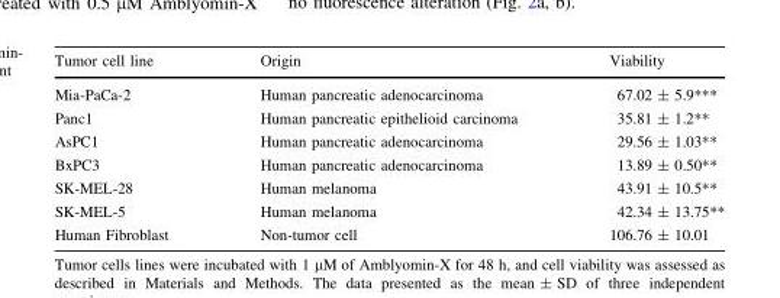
<table><thead><tr><td>Tumor cell line</td><td>Origin</td><td>Viability</td></tr></thead><tbody><tr><td>Mia-PaCa-2</td><td>Human pancreatic adenocarcinoma</td><td>67.02 ± 5.9***</td></tr><tr><td>Panc1</td><td>Human pancreatic epithelioid carcinoma</td><td>35.81 ± 1.2**</td></tr><tr><td>AsPC1</td><td>Human pancreatic adenocarcinoma</td><td>29.56 ± 1.03**</td></tr><tr><td>BxPC3</td><td>Human pancreatic adenocarcinoma</td><td>13.89 ± 0.50**</td></tr><tr><td>SK-MEL-28</td><td>Human melanoma</td><td>43.91 ± 10.5**</td></tr><tr><td>SK-MEL-5</td><td>Human melanoma</td><td>42.34 ± 13.75**</td></tr><tr><td>Human Fibroblast</td><td>Non-tumor cell</td><td>106.76 ± 10.01</td></tr></tbody></table>